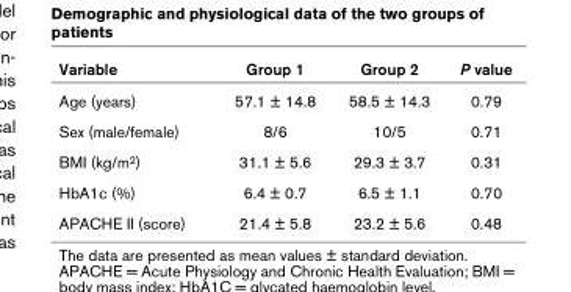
<table><thead><tr><td>Variable</td><td>Group 1</td><td>Group 2</td><td>P value</td></tr></thead><tbody><tr><td>Age (years)</td><td>57.1 ± 14.8</td><td>58.5 ± 14.3</td><td>0.79</td></tr><tr><td>Sex (male/female)</td><td>8/6</td><td>10/5</td><td>0.71</td></tr><tr><td>BMI (kg/m<sup>2</sup>)</td><td>31.1 ± 5.6</td><td>29.3 ± 3.7</td><td>0.31</td></tr><tr><td>HbA1c (%)</td><td>6.4 ± 0.7</td><td>6.5 ± 1.1</td><td>0.70</td></tr><tr><td>APACHE II (score)</td><td>21.4 ± 5.8</td><td>23.2 ± 5.6</td><td>0.48</td></tr></tbody></table>